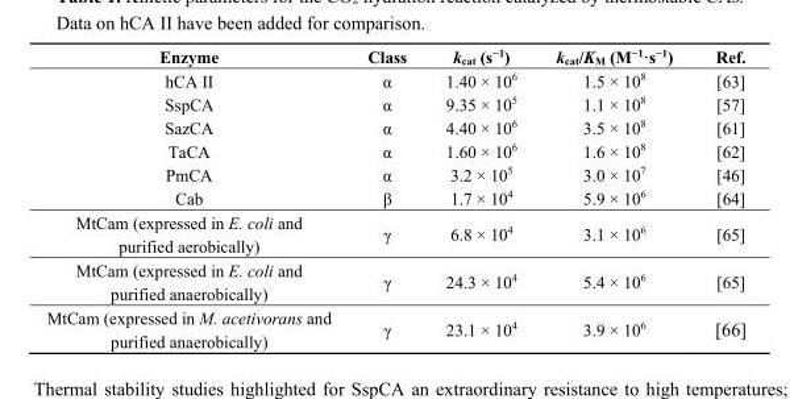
<table><thead><tr><td>Enzyme</td><td>Class</td><td>k<sub>cat</sub> (s<sup>−1</sup>)</td><td>k<sub>cat</sub>/K<sub>M</sub> (M<sup>−1</sup>·s<sup>−1</sup>)</td><td>Ref.</td></tr></thead><tbody><tr><td>hCA II</td><td>α</td><td>1.40 × 10<sup>6</sup></td><td>1.5 × 10<sup>8</sup></td><td>[63]</td></tr><tr><td>SspCA</td><td>α</td><td>9.35 × 10<sup>5</sup></td><td>1.1 × 10<sup>8</sup></td><td>[57]</td></tr><tr><td>SazCA</td><td>α</td><td>4.40 × 10<sup>6</sup></td><td>3.5 × 10<sup>8</sup></td><td>[61]</td></tr><tr><td>TaCA</td><td>α</td><td>1.60 × 10<sup>6</sup></td><td>1.6 × 10<sup>8</sup></td><td>[62]</td></tr><tr><td>PmCA</td><td>α</td><td>3.2 × 10<sup>5</sup></td><td>3.0 × 10<sup>7</sup></td><td>[46]</td></tr><tr><td>Cab</td><td>β</td><td>1.7 × 10<sup>4</sup></td><td>5.9 × 10<sup>6</sup></td><td>[64]</td></tr><tr><td>MtCam (expressed in E. coli and purified aerobically)</td><td>γ</td><td>6.8 × 10<sup>4</sup></td><td>3.1 × 10<sup>6</sup></td><td>[65]</td></tr><tr><td>MtCam (expressed in E. coli and purified anaerobically)</td><td>γ</td><td>24.3 × 10<sup>4</sup></td><td>5.4 × 10<sup>6</sup></td><td>[65]</td></tr><tr><td>MtCam (expressed in M. acetivorans and purified anaerobically)</td><td>γ</td><td>23.1 × 10<sup>4</sup></td><td>3.9 × 10<sup>6</sup></td><td>[66]</td></tr></tbody></table>